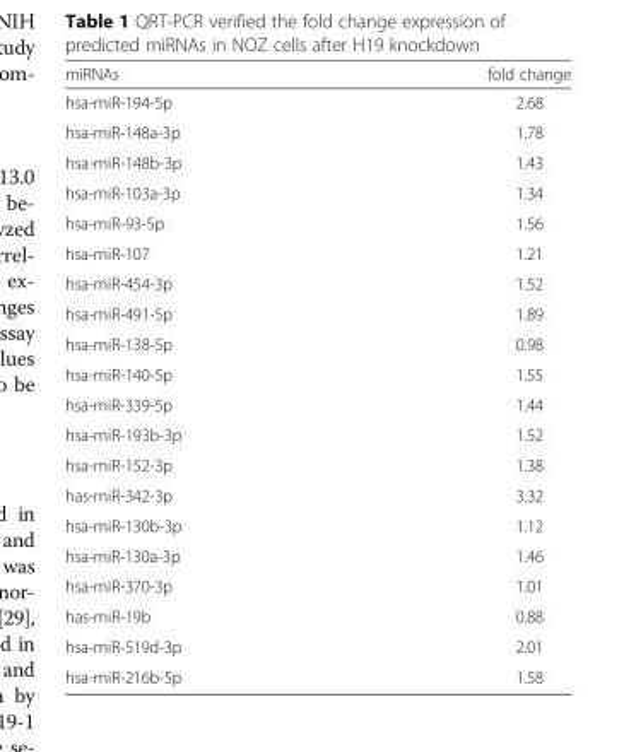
<table><thead><tr><td>miRNAs</td><td>fold change</td></tr></thead><tbody><tr><td>hsa-miR-194-5p</td><td>2.68</td></tr><tr><td>hsa-miR-148a-3p</td><td>1.78</td></tr><tr><td>hsa-miR-148b-3p</td><td>1.43</td></tr><tr><td>hsa-miR-103a-3p</td><td>1.34</td></tr><tr><td>hsa-miR-93-5p</td><td>1.56</td></tr><tr><td>hsa-miR-107</td><td>1.21</td></tr><tr><td>hsa-miR-454-3p</td><td>1.52</td></tr><tr><td>hsa-miR-491-5p</td><td>1.89</td></tr><tr><td>hsa-miR-138-5p</td><td>0.98</td></tr><tr><td>hsa-miR-140-5p</td><td>1.55</td></tr><tr><td>hsa-miR-339-5p</td><td>1.44</td></tr><tr><td>hsa-miR-193b-3p</td><td>1.52</td></tr><tr><td>hsa-miR-152-3p</td><td>1.38</td></tr><tr><td>has-miR-342-3p</td><td>3.32</td></tr><tr><td>hsa-miR-130b-3p</td><td>1.12</td></tr><tr><td>hsa-miR-130a-3p</td><td>1.46</td></tr><tr><td>hsa-miR-370-3p</td><td>1.01</td></tr><tr><td>has-miR-19b</td><td>0.88</td></tr><tr><td>hsa-miR-519d-3p</td><td>2.01</td></tr><tr><td>hsa-miR-216b-5p</td><td>1.58</td></tr></tbody></table>